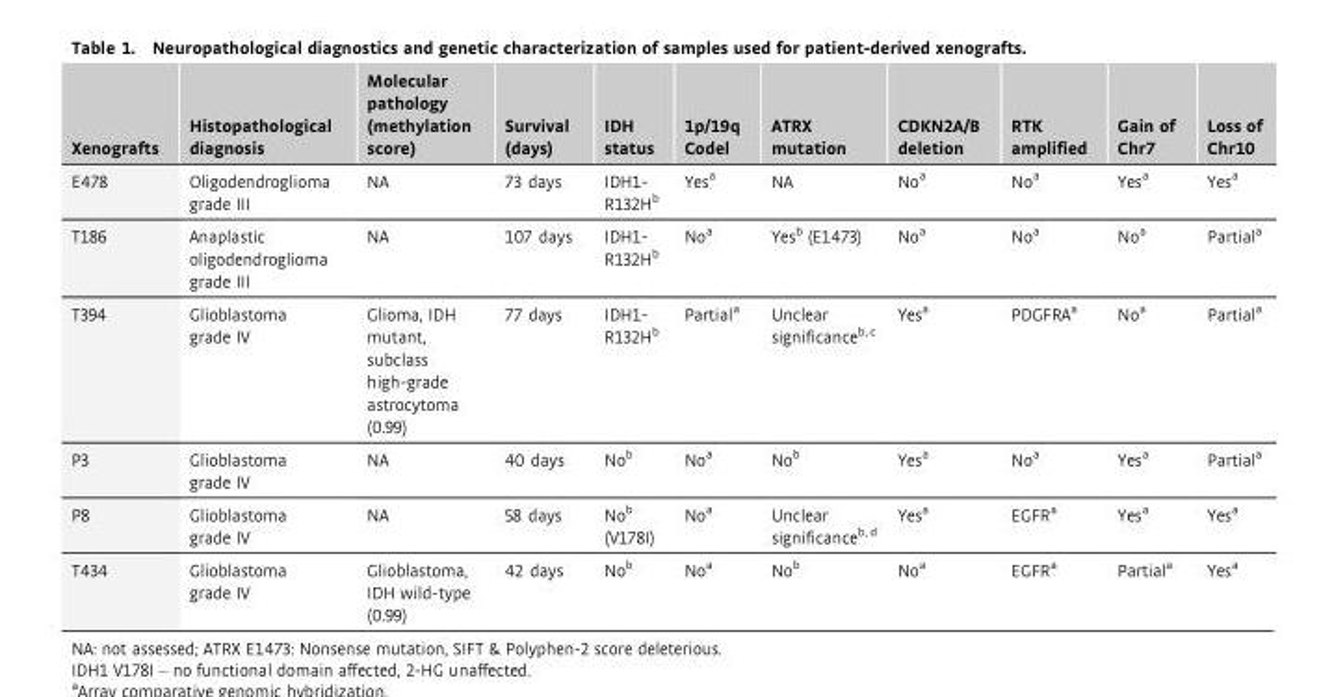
<table><thead><tr><td>Xenografts</td><td>Histopathological diagnosis</td><td>Molecular pathology (methylation score)</td><td>Survival (days)</td><td>IDH status</td><td>1p/19q Codel</td><td>ATRX mutation</td><td>CDKN2A/B deletion</td><td>RTK amplified</td><td>Gain of Chr7</td><td>Loss of Chr10</td></tr></thead><tbody><tr><td>E478</td><td>Oligodendroglioma grade III</td><td>NA</td><td>73 days</td><td>IDH1- R132H<sup>b</sup></td><td>Yes<sup>a</sup></td><td>NA</td><td>No<sup>a</sup></td><td>No<sup>a</sup></td><td>Yes<sup>a</sup></td><td>Yes<sup>a</sup></td></tr><tr><td>T186</td><td>Anaplastic oligodendroglioma grade III</td><td>NA</td><td>107 days</td><td>IDH1- R132H<sup>b</sup></td><td>No<sup>a</sup></td><td>Yes<sup>b</sup> (E1473)</td><td>No<sup>a</sup></td><td>No<sup>a</sup></td><td>No<sup>a</sup></td><td>Partial<sup>a</sup></td></tr><tr><td>T394</td><td>Glioblastoma grade IV</td><td>Glioma, IDH mutant, subclass high-grade astrocytoma (0.99)</td><td>77 days</td><td>IDH1- R132H<sup>b</sup></td><td>Partial<sup>a</sup></td><td>Unclear significance<sup>b,</sup> c</td><td>Yes<sup>a</sup></td><td>PDGFRA<sup>a</sup></td><td>No<sup>a</sup></td><td>Partial<sup>a</sup></td></tr><tr><td>P3</td><td>Glioblastoma grade IV</td><td>NA</td><td>40 days</td><td>No<sup>b</sup></td><td>No<sup>a</sup></td><td>No<sup>b</sup></td><td>Yes<sup>a</sup></td><td>No<sup>a</sup></td><td>Yes<sup>a</sup></td><td>Partial<sup>a</sup></td></tr><tr><td>P8</td><td>Glioblastoma grade IV</td><td>NA</td><td>58 days</td><td>No<sup>b</sup> (V178I)</td><td>No<sup>a</sup></td><td>Unclear significance<sup>b,</sup> d</td><td>Yes<sup>a</sup></td><td>EGFR<sup>a</sup></td><td>Yes<sup>a</sup></td><td>Yes<sup>a</sup></td></tr><tr><td>T434</td><td>Glioblastoma grade IV</td><td>Glioblastoma, IDH wild-type (0.99)</td><td>42 days</td><td>No<sup>b</sup></td><td>No<sup>a</sup></td><td>No<sup>b</sup></td><td>No<sup>a</sup></td><td>EGFR<sup>a</sup></td><td>Partial<sup>a</sup></td><td>Yes<sup>a</sup></td></tr></tbody></table>